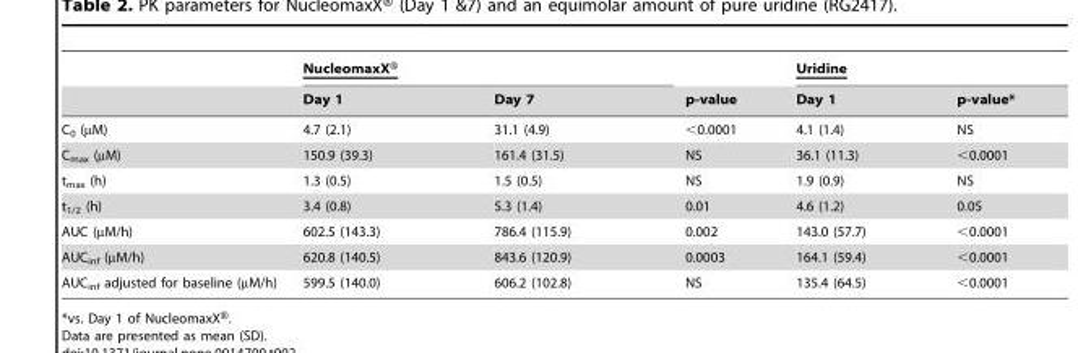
<table><thead><tr><td rowspan="2"></td><td colspan="2">NucleomaxX®</td><td rowspan="2">p-value</td><td colspan="2">Uridine</td></tr><tr><td>Day 1</td><td>Day 7</td><td>Day 1</td><td>p-value*</td></tr></thead><tbody><tr><td>C<sub>0</sub> (µM)</td><td>4.7 (2.1)</td><td>31.1 (4.9)</td><td>&lt;0.0001</td><td>4.1 (1.4)</td><td>NS</td></tr><tr><td>C<sub>max</sub> (µM)</td><td>150.9 (39.3)</td><td>161.4 (31.5)</td><td>NS</td><td>36.1 (11.3)</td><td>&lt;0.0001</td></tr><tr><td>t<sub>max</sub> (h)</td><td>1.3 (0.5)</td><td>1.5 (0.5)</td><td>NS</td><td>1.9 (0.9)</td><td>NS</td></tr><tr><td>t<sub>1/2</sub> (h)</td><td>3.4 (0.8)</td><td>5.3 (1.4)</td><td>0.01</td><td>4.6 (1.2)</td><td>0.05</td></tr><tr><td>AUC (µM/h)</td><td>602.5 (143.3)</td><td>786.4 (115.9)</td><td>0.002</td><td>143.0 (57.7)</td><td>&lt;0.0001</td></tr><tr><td>AUC<sub>inf</sub> (µM/h)</td><td>620.8 (140.5)</td><td>843.6 (120.9)</td><td>0.0003</td><td>164.1 (59.4)</td><td>&lt;0.0001</td></tr><tr><td>AUC<sub>inf</sub> adjusted for baseline (µM/h)</td><td>599.5 (140.0)</td><td>606.2 (102.8)</td><td>NS</td><td>135.4 (64.5)</td><td>&lt;0.0001</td></tr></tbody></table>